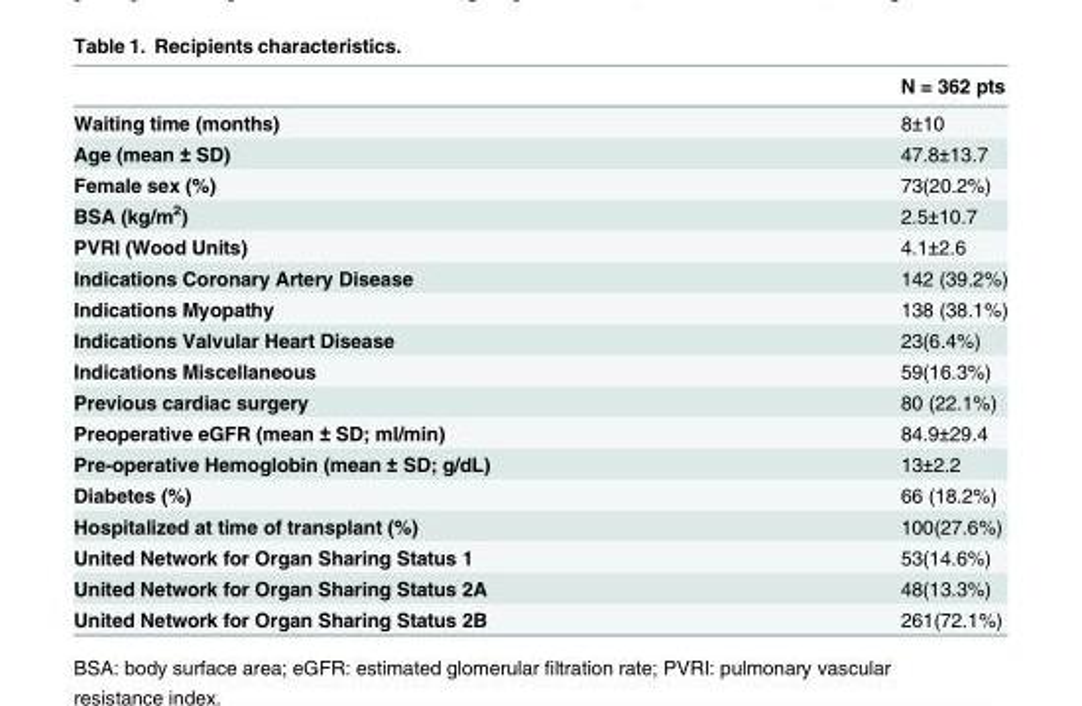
<table><thead><tr><td></td><td>N = 362 pts</td></tr></thead><tbody><tr><td>Waiting time (months)</td><td>8±10</td></tr><tr><td>Age (mean ± SD)</td><td>47.8±13.7</td></tr><tr><td>Female sex (%)</td><td>73(20.2%)</td></tr><tr><td>BSA (kg/m<sup>2</sup>)</td><td>2.5±10.7</td></tr><tr><td>PVRI (Wood Units)</td><td>4.1±2.6</td></tr><tr><td>Indications Coronary Artery Disease</td><td>142 (39.2%)</td></tr><tr><td>Indications Myopathy</td><td>138 (38.1%)</td></tr><tr><td>Indications Valvular Heart Disease</td><td>23(6.4%)</td></tr><tr><td>Indications Miscellaneous</td><td>59(16.3%)</td></tr><tr><td>Previous cardiac surgery</td><td>80 (22.1%)</td></tr><tr><td>Preoperative eGFR (mean ± SD; ml/min)</td><td>84.9±29.4</td></tr><tr><td>Pre-operative Hemoglobin (mean ± SD; g/dL)</td><td>13±2.2</td></tr><tr><td>Diabetes (%)</td><td>66 (18.2%)</td></tr><tr><td>Hospitalized at time of transplant (%)</td><td>100(27.6%)</td></tr><tr><td>United Network for Organ Sharing Status 1</td><td>53(14.6%)</td></tr><tr><td>United Network for Organ Sharing Status 2A</td><td>48(13.3%)</td></tr><tr><td>United Network for Organ Sharing Status 2B</td><td>261(72.1%)</td></tr></tbody></table>